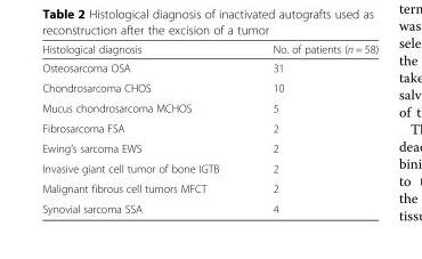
<table><thead><tr><td>Histological diagnosis</td><td>No. of patients (n = 58)</td></tr></thead><tbody><tr><td>Osteosarcoma OSA</td><td>31</td></tr><tr><td>Chondrosarcoma CHOS</td><td>10</td></tr><tr><td>Mucus chondrosarcoma MCHOS</td><td>5</td></tr><tr><td>Fibrosarcoma FSA</td><td>2</td></tr><tr><td>Ewing’s sarcoma EWS</td><td>2</td></tr><tr><td>Invasive giant cell tumor of bone IGTB</td><td>2</td></tr><tr><td>Malignant fibrous cell tumors MFCT</td><td>2</td></tr><tr><td>Synovial sarcoma SSA</td><td>4</td></tr></tbody></table>